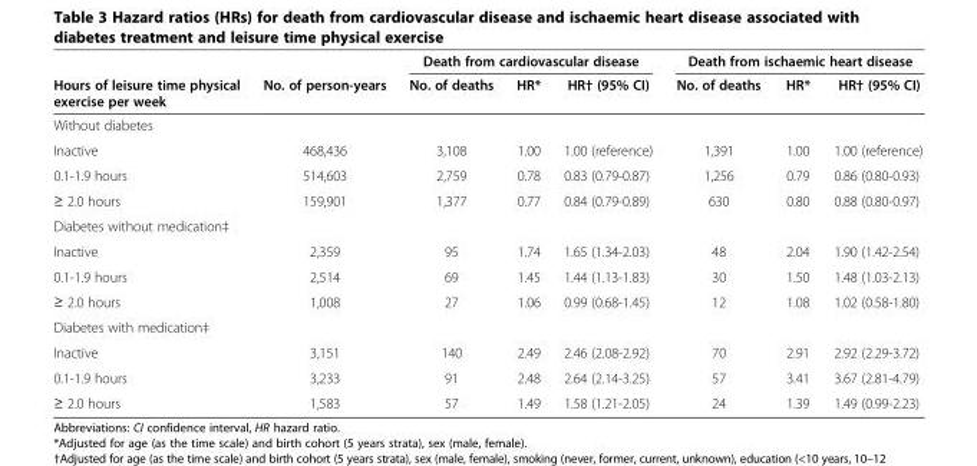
<table><thead><tr><td rowspan="2">Hours of leisure time physical exercise per week</td><td rowspan="2">No. of person-years</td><td colspan="3">Death from cardiovascular disease</td><td colspan="3">Death from ischaemic heart disease</td></tr><tr><td>No. of deaths</td><td>HR*</td><td>HR† (95% CI)</td><td>No. of deaths</td><td>HR*</td><td>HR† (95% CI)</td></tr></thead><tbody><tr><td colspan="8">Without diabetes</td></tr><tr><td>Inactive</td><td>468,436</td><td>3,108</td><td>1.00</td><td>1.00 (reference)</td><td>1,391</td><td>1.00</td><td>1.00 (reference)</td></tr><tr><td>0.1-1.9 hours</td><td>514,603</td><td>2,759</td><td>0.78</td><td>0.83 (0.79-0.87)</td><td>1,256</td><td>0.79</td><td>0.86 (0.80-0.93)</td></tr><tr><td>≥ 2.0 hours</td><td>159,901</td><td>1,377</td><td>0.77</td><td>0.84 (0.79-0.89)</td><td>630</td><td>0.80</td><td>0.88 (0.80-0.97)</td></tr><tr><td colspan="8">Diabetes without medication‡</td></tr><tr><td>Inactive</td><td>2,359</td><td>95</td><td>1.74</td><td>1.65 (1.34-2.03)</td><td>48</td><td>2.04</td><td>1.90 (1.42-2.54)</td></tr><tr><td>0.1-1.9 hours</td><td>2,514</td><td>69</td><td>1.45</td><td>1.44 (1.13-1.83)</td><td>30</td><td>1.50</td><td>1.48 (1.03-2.13)</td></tr><tr><td>≥ 2.0 hours</td><td>1,008</td><td>27</td><td>1.06</td><td>0.99 (0.68-1.45)</td><td>12</td><td>1.08</td><td>1.02 (0.58-1.80)</td></tr><tr><td colspan="8">Diabetes with medication‡</td></tr><tr><td>Inactive</td><td>3,151</td><td>140</td><td>2.49</td><td>2.46 (2.08-2.92)</td><td>70</td><td>2.91</td><td>2.92 (2.29-3.72)</td></tr><tr><td>0.1-1.9 hours</td><td>3,233</td><td>91</td><td>2.48</td><td>2.64 (2.14-3.25)</td><td>57</td><td>3.41</td><td>3.67 (2.81-4.79)</td></tr><tr><td>≥ 2.0 hours</td><td>1,583</td><td>57</td><td>1.49</td><td>1.58 (1.21-2.05)</td><td>24</td><td>1.39</td><td>1.49 (0.99-2.23)</td></tr></tbody></table>